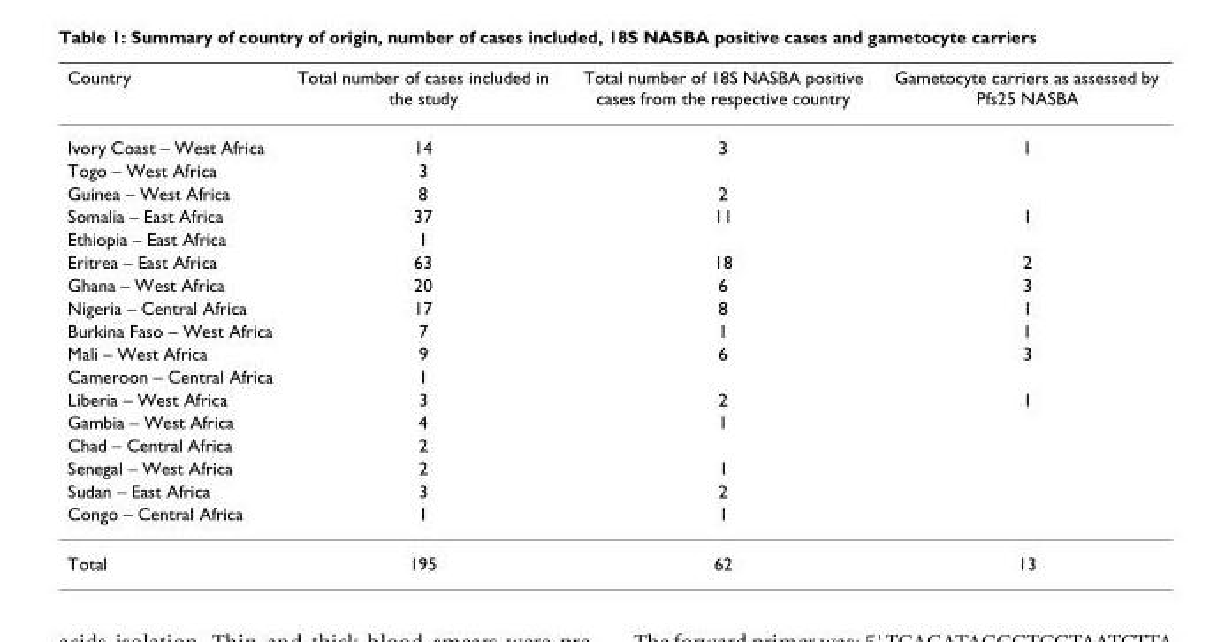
<table><thead><tr><td>Country</td><td>Total number of cases included in the study</td><td>Total number of 18S NASBA positive cases from the respective country</td><td>Gametocyte carriers as assessed by Pfs25 NASBA</td></tr></thead><tbody><tr><td>Ivory Coast – West Africa</td><td>14</td><td>3</td><td>1</td></tr><tr><td>Togo – West Africa</td><td>3</td><td></td><td></td></tr><tr><td>Guinea – West Africa</td><td>8</td><td>2</td><td></td></tr><tr><td>Somalia – East Africa</td><td>37</td><td>11</td><td>1</td></tr><tr><td>Ethiopia – East Africa</td><td>1</td><td></td><td></td></tr><tr><td>Eritrea – East Africa</td><td>63</td><td>18</td><td>2</td></tr><tr><td>Ghana – West Africa</td><td>20</td><td>6</td><td>3</td></tr><tr><td>Nigeria – Central Africa</td><td>17</td><td>8</td><td>1</td></tr><tr><td>Burkina Faso – West Africa</td><td>7</td><td>1</td><td>1</td></tr><tr><td>Mali – West Africa</td><td>9</td><td>6</td><td>3</td></tr><tr><td>Cameroon – Central Africa</td><td>1</td><td></td><td></td></tr><tr><td>Liberia – West Africa</td><td>3</td><td>2</td><td>1</td></tr><tr><td>Gambia – West Africa</td><td>4</td><td>1</td><td></td></tr><tr><td>Chad – Central Africa</td><td>2</td><td></td><td></td></tr><tr><td>Senegal – West Africa</td><td>2</td><td>1</td><td></td></tr><tr><td>Sudan – East Africa</td><td>3</td><td>2</td><td></td></tr><tr><td>Congo – Central Africa</td><td>1</td><td>1</td><td></td></tr><tr><td>Total</td><td>195</td><td>62</td><td>13</td></tr></tbody></table>